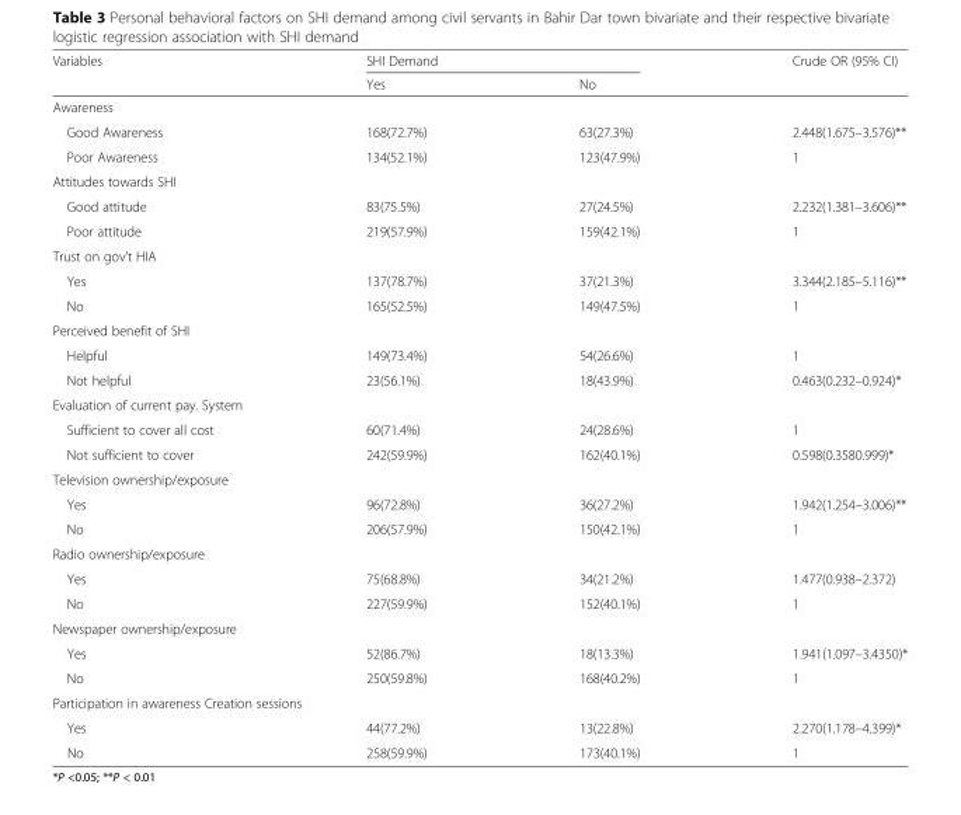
<table><thead><tr><td rowspan="2">Variables</td><td colspan="2">SHI Demand</td><td rowspan="2">Crude OR (95% CI)</td></tr><tr><td>Yes</td><td>No</td></tr></thead><tbody><tr><td colspan="4">Awareness</td></tr><tr><td>Good Awareness</td><td>168(72.7%)</td><td>63(27.3%)</td><td>2.448(1.675–3.576)**</td></tr><tr><td>Poor Awareness</td><td>134(52.1%)</td><td>123(47.9%)</td><td>1</td></tr><tr><td colspan="4">Attitudes towards SHI</td></tr><tr><td>Good attitude</td><td>83(75.5%)</td><td>27(24.5%)</td><td>2.232(1.381–3.606)**</td></tr><tr><td>Poor attitude</td><td>219(57.9%)</td><td>159(42.1%)</td><td>1</td></tr><tr><td colspan="4">Trust on gov’t HIA</td></tr><tr><td>Yes</td><td>137(78.7%)</td><td>37(21.3%)</td><td>3.344(2.185–5.116)**</td></tr><tr><td>No</td><td>165(52.5%)</td><td>149(47.5%)</td><td>1</td></tr><tr><td colspan="4">Perceived benefit of SHI</td></tr><tr><td>Helpful</td><td>149(73.4%)</td><td>54(26.6%)</td><td>1</td></tr><tr><td>Not helpful</td><td>23(56.1%)</td><td>18(43.9%)</td><td>0.463(0.232–0.924)*</td></tr><tr><td colspan="4">Evaluation of current pay. System</td></tr><tr><td>Sufficient to cover all cost</td><td>60(71.4%)</td><td>24(28.6%)</td><td>1</td></tr><tr><td>Not sufficient to cover</td><td>242(59.9%)</td><td>162(40.1%)</td><td>0.598(0.3580.999)*</td></tr><tr><td colspan="4">Television ownership/exposure</td></tr><tr><td>Yes</td><td>96(72.8%)</td><td>36(27.2%)</td><td>1.942(1.254–3.006)**</td></tr><tr><td>No</td><td>206(57.9%)</td><td>150(42.1%)</td><td>1</td></tr><tr><td colspan="4">Radio ownership/exposure</td></tr><tr><td>Yes</td><td>75(68.8%)</td><td>34(21.2%)</td><td>1.477(0.938–2.372)</td></tr><tr><td>No</td><td>227(59.9%)</td><td>152(40.1%)</td><td>1</td></tr><tr><td colspan="4">Newspaper ownership/exposure</td></tr><tr><td>Yes</td><td>52(86.7%)</td><td>18(13.3%)</td><td>1.941(1.097–3.4350)*</td></tr><tr><td>No</td><td>250(59.8%)</td><td>168(40.2%)</td><td>1</td></tr><tr><td colspan="4">Participation in awareness Creation sessions</td></tr><tr><td>Yes</td><td>44(77.2%)</td><td>13(22.8%)</td><td>2.270(1.178–4.399)*</td></tr><tr><td>No</td><td>258(59.9%)</td><td>173(40.1%)</td><td>1</td></tr></tbody></table>